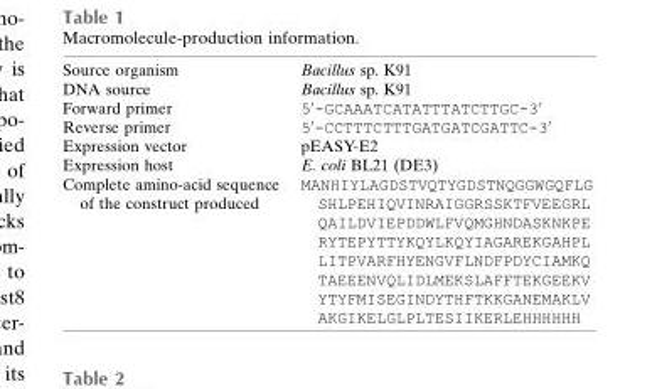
<table><tbody><tr><td>Source organism</td><td>Bacillus sp. K91</td></tr><tr><td>DNA source</td><td>Bacillus sp. K91</td></tr><tr><td>Forward primer</td><td>5′-GCAAATCATATTTATCTTGC-3′</td></tr><tr><td>Reverse primer</td><td>5′-CCTTTCTTTGATGATCGATTC-3′</td></tr><tr><td>Expression vector</td><td>pEASY-E2</td></tr><tr><td>Expression host</td><td>E. coli BL21 (DE3)</td></tr><tr><td>Complete amino-acid sequence of the construct produced</td><td>MANHIYLAGDSTVQTYGDSTNQGGWGQFLG SHLPEHIQVINRAIGGRSSKTFVEEGRL QAILDVIEPDDWLFVQMGHNDASKNKPE RYTEPYTTYKQYLKQYIAGAREKGAHPL LITPVARFHYENGVFLNDFPDYCIAMKQ TAEEENVQLIDLMEKSLAFFTEKGEEKV YTYFMISEGINDYTHFTKKGANEMAKLV AKGIKELGLPLTESIIKERLEHHHHHH</td></tr></tbody></table>